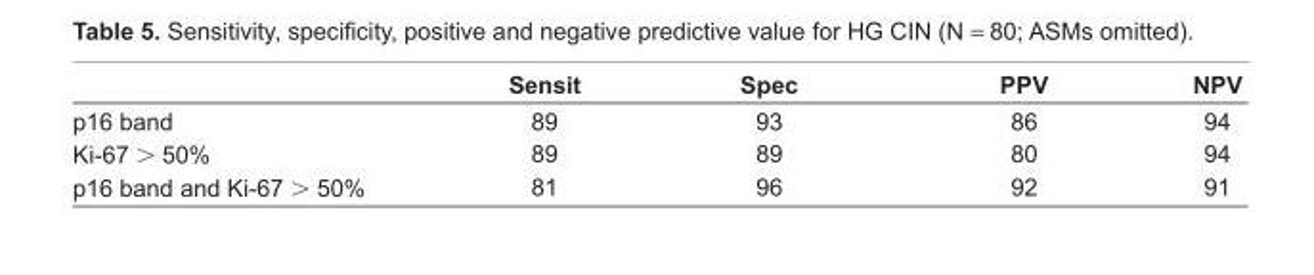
<table><thead><tr><td></td><td>Sensit</td><td>Spec</td><td>PPV</td><td>NPV</td></tr></thead><tbody><tr><td>p16 band</td><td>89</td><td>93</td><td>86</td><td>94</td></tr><tr><td>Ki-67 &gt; 50%</td><td>89</td><td>89</td><td>80</td><td>94</td></tr><tr><td>p16 band and Ki-67 &gt; 50%</td><td>81</td><td>96</td><td>92</td><td>91</td></tr></tbody></table>